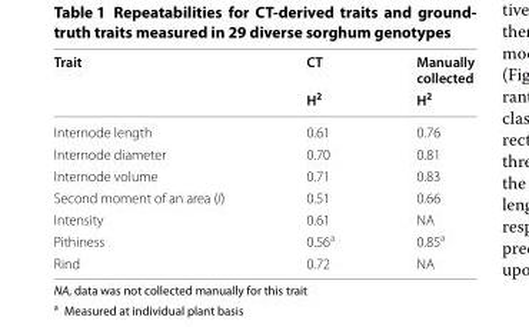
<table><thead><tr><td rowspan="2">Trait</td><td rowspan="2">CT H<sup>2</sup></td><td rowspan="2">Manually collected H<sup>2</sup></td></tr><tr></tr></thead><tbody><tr><td>Internode length</td><td>0.61</td><td>0.76</td></tr><tr><td>Internode diameter</td><td>0.70</td><td>0.81</td></tr><tr><td>Internode volume</td><td>0.71</td><td>0.83</td></tr><tr><td>Second moment of an area (I)</td><td>0.51</td><td>0.66</td></tr><tr><td>Intensity</td><td>0.61</td><td>NA</td></tr><tr><td>Pithiness</td><td>0.56<sup>a</sup></td><td>0.85<sup>a</sup></td></tr><tr><td>Rind</td><td>0.72</td><td>NA</td></tr></tbody></table>